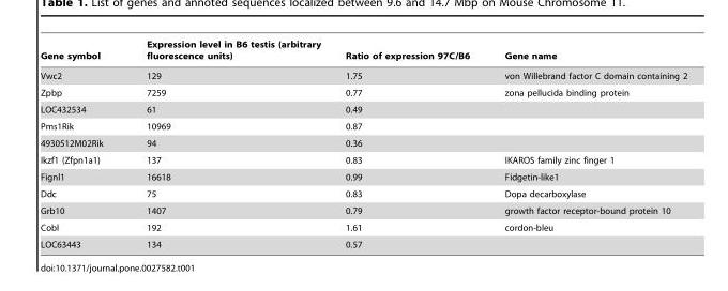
<table><thead><tr><td>Gene symbol</td><td>Expression level in B6 testis (arbitrary fluorescence units)</td><td>Ratio of expression 97C/B6</td><td>Gene name</td></tr></thead><tbody><tr><td>Vwc2</td><td>129</td><td>1.75</td><td>von Willebrand factor C domain containing 2</td></tr><tr><td>Zpbp</td><td>7259</td><td>0.77</td><td>zona pellucida binding protein</td></tr><tr><td>LOC432534</td><td>61</td><td>0.49</td><td></td></tr><tr><td>Pms1Rik</td><td>10969</td><td>0.87</td><td></td></tr><tr><td>4930512M02Rik</td><td>94</td><td>0.36</td><td></td></tr><tr><td>Ikzf1 (Zfpn1a1)</td><td>137</td><td>0.83</td><td>IKAROS family zinc finger 1</td></tr><tr><td>Fignl1</td><td>16618</td><td>0.99</td><td>Fidgetin-like1</td></tr><tr><td>Ddc</td><td>75</td><td>0.83</td><td>Dopa decarboxylase</td></tr><tr><td>Grb10</td><td>1407</td><td>0.79</td><td>growth factor receptor-bound protein 10</td></tr><tr><td>Cobl</td><td>192</td><td>1.61</td><td>cordon-bleu</td></tr><tr><td>LOC63443</td><td>134</td><td>0.57</td><td></td></tr></tbody></table>